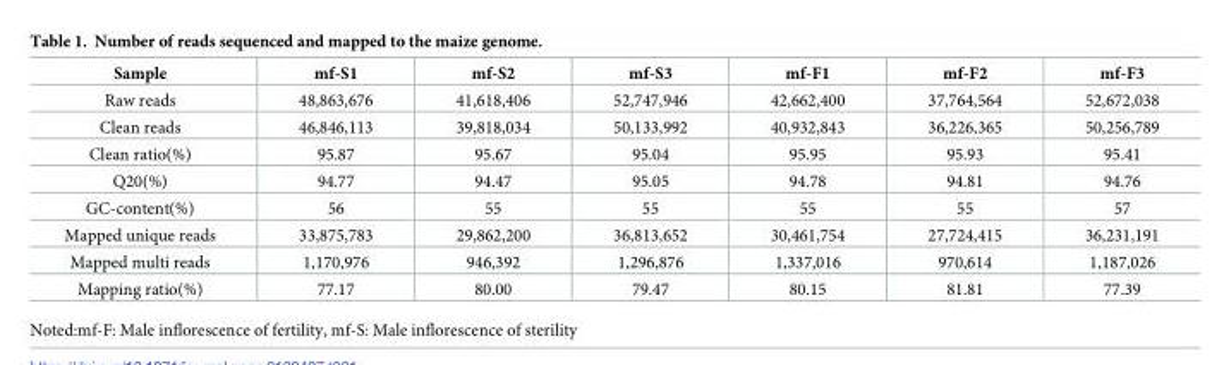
<table><thead><tr><td>Sample</td><td>mf-S1</td><td>mf-S2</td><td>mf-S3</td><td>mf-F1</td><td>mf-F2</td><td>mf-F3</td></tr></thead><tbody><tr><td>Raw reads</td><td>48,863,676</td><td>41,618,406</td><td>52,747,946</td><td>42,662,400</td><td>37,764,564</td><td>52,672,038</td></tr><tr><td>Clean reads</td><td>46,846,113</td><td>39,818,034</td><td>50,133,992</td><td>40,932,843</td><td>36,226,365</td><td>50,256,789</td></tr><tr><td>Clean ratio(%)</td><td>95.87</td><td>95.67</td><td>95.04</td><td>95.95</td><td>95.93</td><td>95.41</td></tr><tr><td>Q20(%)</td><td>94.77</td><td>94.47</td><td>95.05</td><td>94.78</td><td>94.81</td><td>94.76</td></tr><tr><td>GC-content(%)</td><td>56</td><td>55</td><td>55</td><td>55</td><td>55</td><td>57</td></tr><tr><td>Mapped unique reads</td><td>33,875,783</td><td>29,862,200</td><td>36,813,652</td><td>30,461,754</td><td>27,724,415</td><td>36,231,191</td></tr><tr><td>Mapped multi reads</td><td>1,170,976</td><td>946,392</td><td>1,296,876</td><td>1,337,016</td><td>970,614</td><td>1,187,026</td></tr><tr><td>Mapping ratio(%)</td><td>77.17</td><td>80.00</td><td>79.47</td><td>80.15</td><td>81.81</td><td>77.39</td></tr></tbody></table>